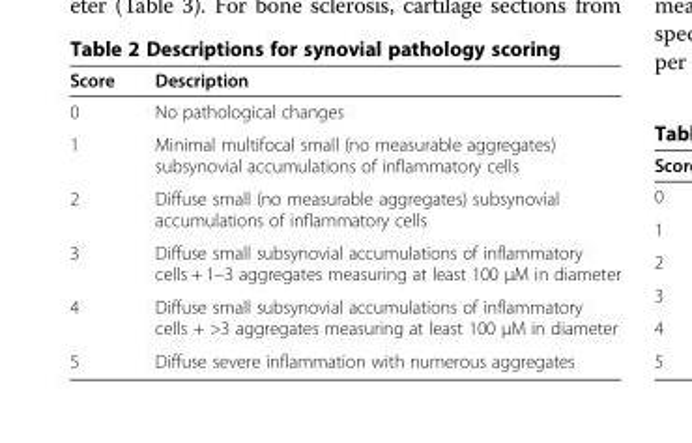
<table><thead><tr><td>Score</td><td>Description</td></tr></thead><tbody><tr><td>0</td><td>No pathological changes</td></tr><tr><td>1</td><td>Minimal multifocal small (no measurable aggregates) subsynovial accumulations of inflammatory cells</td></tr><tr><td>2</td><td>Diffuse small (no measurable aggregates) subsynovial accumulations of inflammatory cells</td></tr><tr><td>3</td><td>Diffuse small subsynovial accumulations of inflammatory cells + 1–3 aggregates measuring at least 100 µM in diameter</td></tr><tr><td>4</td><td>Diffuse small subsynovial accumulations of inflammatory cells + &gt;3 aggregates measuring at least 100 µM in diameter</td></tr><tr><td>5</td><td>Diffuse severe inflammation with numerous aggregates</td></tr></tbody></table>